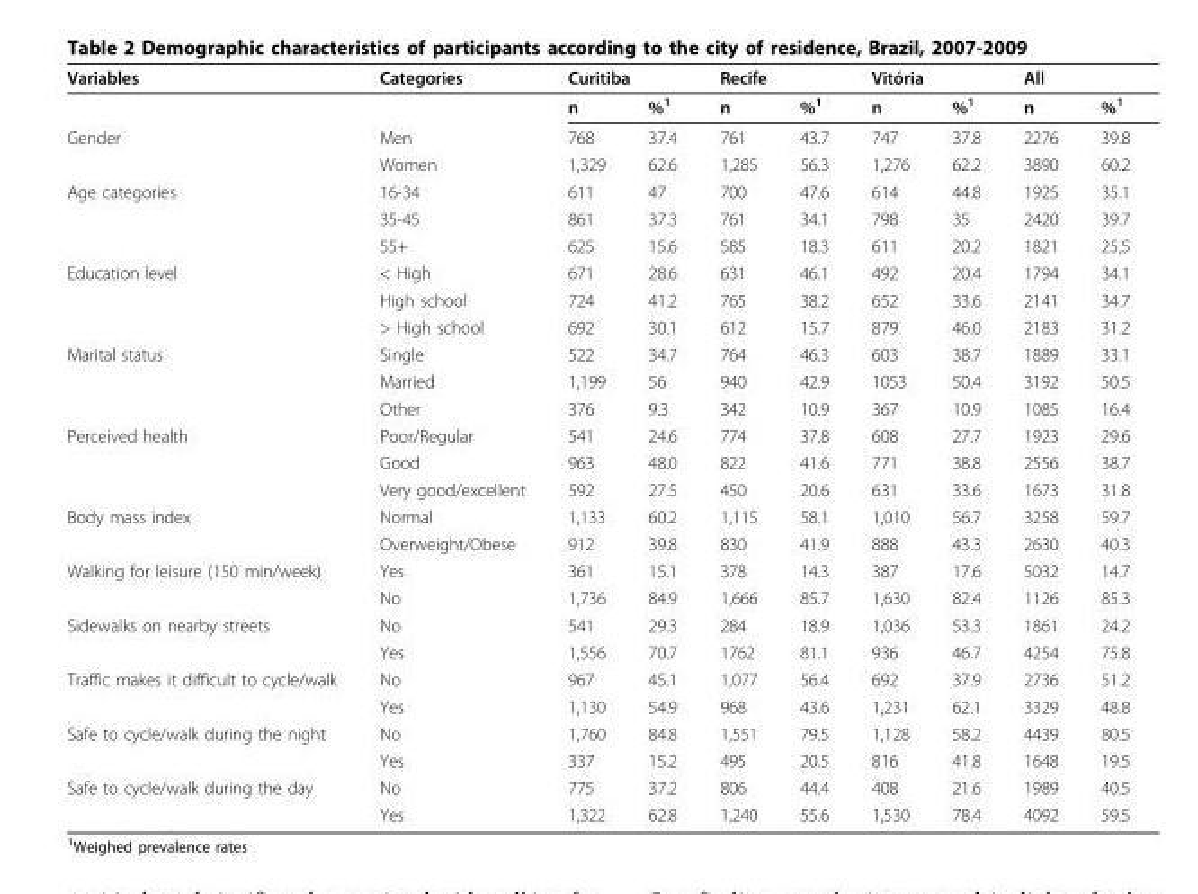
<table><thead><tr><td rowspan="2">Variables</td><td rowspan="2">Categories</td><td colspan="2">Curitiba</td><td colspan="2">Recife</td><td colspan="2">Vitória</td><td colspan="2">All</td></tr><tr><td>n</td><td>%<sup>1</sup></td><td>n</td><td>%<sup>1</sup></td><td>n</td><td>%<sup>1</sup></td><td>n</td><td>%<sup>1</sup></td></tr></thead><tbody><tr><td rowspan="2">Gender</td><td>Men</td><td>768</td><td>37.4</td><td>761</td><td>43.7</td><td>747</td><td>37.8</td><td>2276</td><td>39.8</td></tr><tr><td>Women</td><td>1,329</td><td>62.6</td><td>1,285</td><td>56.3</td><td>1,276</td><td>62.2</td><td>3890</td><td>60.2</td></tr><tr><td rowspan="3">Age categories</td><td>16-34</td><td>611</td><td>47</td><td>700</td><td>47.6</td><td>614</td><td>44.8</td><td>1925</td><td>35.1</td></tr><tr><td>35-45</td><td>861</td><td>37.3</td><td>761</td><td>34.1</td><td>798</td><td>35</td><td>2420</td><td>39.7</td></tr><tr><td>55+</td><td>625</td><td>15.6</td><td>585</td><td>18.3</td><td>611</td><td>20.2</td><td>1821</td><td>25,5</td></tr><tr><td rowspan="3">Education level</td><td>&lt; High</td><td>671</td><td>28.6</td><td>631</td><td>46.1</td><td>492</td><td>20.4</td><td>1794</td><td>34.1</td></tr><tr><td>High school</td><td>724</td><td>41.2</td><td>765</td><td>38.2</td><td>652</td><td>33.6</td><td>2141</td><td>34.7</td></tr><tr><td>&gt; High school</td><td>692</td><td>30.1</td><td>612</td><td>15.7</td><td>879</td><td>46.0</td><td>2183</td><td>31.2</td></tr><tr><td rowspan="3">Marital status</td><td>Single</td><td>522</td><td>34.7</td><td>764</td><td>46.3</td><td>603</td><td>38.7</td><td>1889</td><td>33.1</td></tr><tr><td>Married</td><td>1,199</td><td>56</td><td>940</td><td>42.9</td><td>1053</td><td>50.4</td><td>3192</td><td>50.5</td></tr><tr><td>Other</td><td>376</td><td>9.3</td><td>342</td><td>10.9</td><td>367</td><td>10.9</td><td>1085</td><td>16.4</td></tr><tr><td rowspan="3">Perceived health</td><td>Poor/Regular</td><td>541</td><td>24.6</td><td>774</td><td>37.8</td><td>608</td><td>27.7</td><td>1923</td><td>29.6</td></tr><tr><td>Good</td><td>963</td><td>48.0</td><td>822</td><td>41.6</td><td>771</td><td>38.8</td><td>2556</td><td>38.7</td></tr><tr><td>Very good/excellent</td><td>592</td><td>27.5</td><td>450</td><td>20.6</td><td>631</td><td>33.6</td><td>1673</td><td>31.8</td></tr><tr><td rowspan="2">Body mass index</td><td>Normal</td><td>1,133</td><td>60.2</td><td>1,115</td><td>58.1</td><td>1,010</td><td>56.7</td><td>3258</td><td>59.7</td></tr><tr><td>Overweight/Obese</td><td>912</td><td>39.8</td><td>830</td><td>41.9</td><td>888</td><td>43.3</td><td>2630</td><td>40.3</td></tr><tr><td rowspan="2">Walking for leisure (150 min/week)</td><td>Yes</td><td>361</td><td>15.1</td><td>378</td><td>14.3</td><td>387</td><td>17.6</td><td>5032</td><td>14.7</td></tr><tr><td>No</td><td>1,736</td><td>84.9</td><td>1,666</td><td>85.7</td><td>1,630</td><td>82.4</td><td>1126</td><td>85.3</td></tr><tr><td rowspan="2">Sidewalks on nearby streets</td><td>No</td><td>541</td><td>29.3</td><td>284</td><td>18.9</td><td>1,036</td><td>53.3</td><td>1861</td><td>24.2</td></tr><tr><td>Yes</td><td>1,556</td><td>70.7</td><td>1762</td><td>81.1</td><td>936</td><td>46.7</td><td>4254</td><td>75.8</td></tr><tr><td rowspan="2">Traffic makes it difficult to cycle/walk</td><td>No</td><td>967</td><td>45.1</td><td>1,077</td><td>56.4</td><td>692</td><td>37.9</td><td>2736</td><td>51.2</td></tr><tr><td>Yes</td><td>1,130</td><td>54.9</td><td>968</td><td>43.6</td><td>1,231</td><td>62.1</td><td>3329</td><td>48.8</td></tr><tr><td rowspan="2">Safe to cycle/walk during the night</td><td>No</td><td>1,760</td><td>84.8</td><td>1,551</td><td>79.5</td><td>1,128</td><td>58.2</td><td>4439</td><td>80.5</td></tr><tr><td>Yes</td><td>337</td><td>15.2</td><td>495</td><td>20.5</td><td>816</td><td>41.8</td><td>1648</td><td>19.5</td></tr><tr><td rowspan="2">Safe to cycle/walk during the day</td><td>No</td><td>775</td><td>37.2</td><td>806</td><td>44.4</td><td>408</td><td>21.6</td><td>1989</td><td>40.5</td></tr><tr><td>Yes</td><td>1,322</td><td>62.8</td><td>1,240</td><td>55.6</td><td>1,530</td><td>78.4</td><td>4092</td><td>59.5</td></tr></tbody></table>